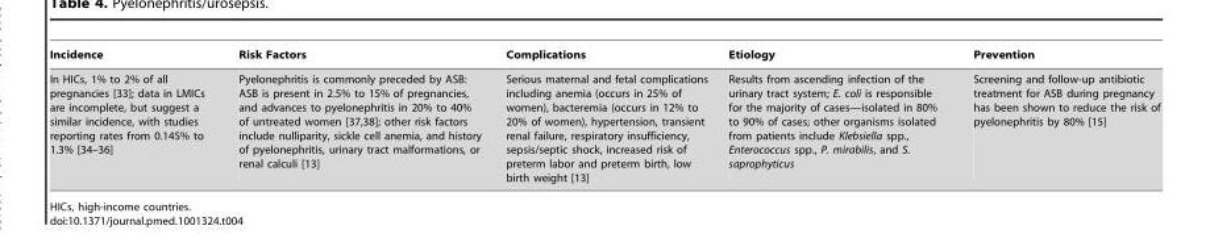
<table><thead><tr><td>Incidence</td><td>Risk Factors</td><td>Complications</td><td>Etiology</td><td>Prevention</td></tr></thead><tbody><tr><td>In HICs, 1% to 2% of all pregnancies [33]; data in LMICs are incomplete, but suggest a similar incidence, with studies reporting rates from 0.145% to 1.3% [34–36]</td><td>Pyelonephritis is commonly preceded by ASB: ASB is present in 2.5% to 15% of pregnancies, and advances to pyelonephritis in 20% to 40% of untreated women [37,38]; other risk factors include nulliparity, sickle cell anemia, and history of pyelonephritis, urinary tract malformations, or renal calculi [13]</td><td>Serious maternal and fetal complications including anemia (occurs in 25% of women), bacteremia (occurs in 12% to 20% of women), hypertension, transient renal failure, respiratory insufficiency, sepsis/septic shock, increased risk of preterm labor and preterm birth, low birth weight [13]</td><td>Results from ascending infection of the urinary tract system; E. coli is responsible for the majority of cases—isolated in 80% to 90% of cases; other organisms isolated from patients include Klebsiella spp., Enterococcus spp., P. mirabilis, and S. saprophyticus</td><td>Screening and follow-up antibiotic treatment for ASB during pregnancy has been shown to reduce the risk of pyelonephritis by 80% [15]</td></tr></tbody></table>